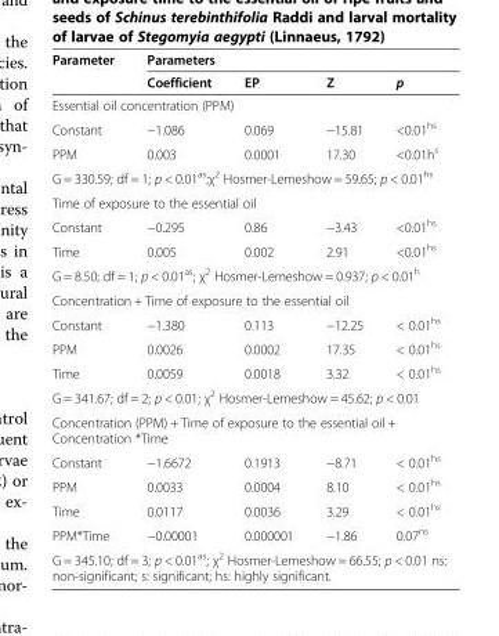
<table><thead><tr><td rowspan="2">Parameter</td><td colspan="4">Parameters</td></tr><tr><td>Coefficient</td><td>EP</td><td>Z</td><td>p</td></tr></thead><tbody><tr><td colspan="5">Essential oil concentration (PPM)</td></tr><tr><td>Constant</td><td>−1.086</td><td>0.069</td><td>−15.81</td><td>&lt;0.01<sup>hs</sup></td></tr><tr><td>PPM</td><td>0.003</td><td>0.0001</td><td>17.30</td><td>&lt;0.01h<sup>s</sup></td></tr><tr><td colspan="5">G = 330.59; df = 1; p &lt; 0.01<sup>as</sup>;χ<sup>2</sup> Hosmer-Lemeshow = 59.65; p &lt; 0.01<sup>hs</sup></td></tr><tr><td colspan="5">Time of exposure to the essential oil</td></tr><tr><td>Constant</td><td>−0.295</td><td>0.86</td><td>−3.43</td><td>&lt;0.01<sup>hs</sup></td></tr><tr><td>Time</td><td>0.005</td><td>0.002</td><td>2.91</td><td>&lt;0.01<sup>hs</sup></td></tr><tr><td colspan="5">G = 8.50; df = 1; p &lt; 0.01<sup>as</sup>; χ<sup>2</sup> Hosmer-Lemeshow = 0.937; p &lt; 0.01<sup>h</sup></td></tr><tr><td colspan="5">Concentration + Time of exposure to the essential oil</td></tr><tr><td>Constant</td><td>−1.380</td><td>0.113</td><td>−12.25</td><td>&lt; 0.01<sup>hs</sup></td></tr><tr><td>PPM</td><td>0.0026</td><td>0.0002</td><td>17.35</td><td>&lt; 0.01<sup>hs</sup></td></tr><tr><td>Time</td><td>0.0059</td><td>0.0018</td><td>3.32</td><td>&lt; 0.01<sup>hs</sup></td></tr><tr><td colspan="5">G = 341.67; df = 2; p &lt; 0.01; χ<sup>2</sup> Hosmer-Lemeshow = 45.62; p &lt; 0.01</td></tr><tr><td colspan="5">Concentration (PPM) + Time of exposure to the essential oil + Concentration *Time</td></tr><tr><td>Constant</td><td>−1.6672</td><td>0.1913</td><td>−8.71</td><td>&lt; 0.01<sup>hs</sup></td></tr><tr><td>PPM</td><td>0.0033</td><td>0.0004</td><td>8.10</td><td>&lt; 0.01<sup>hs</sup></td></tr><tr><td>Time</td><td>0.0117</td><td>0.0036</td><td>3.29</td><td>&lt; 0.01<sup>hs</sup></td></tr><tr><td>PPM*Time</td><td>−0.00001</td><td>0.000001</td><td>−1.86</td><td>0.07<sup>ns</sup></td></tr><tr><td colspan="5">G = 345.10; df = 3; p &lt; 0.01<sup>as</sup>; χ<sup>2</sup> Hosmer-Lemeshow = 66.55; p &lt; 0.01 ns: non-significant; s: significant; hs: highly significant.</td></tr></tbody></table>